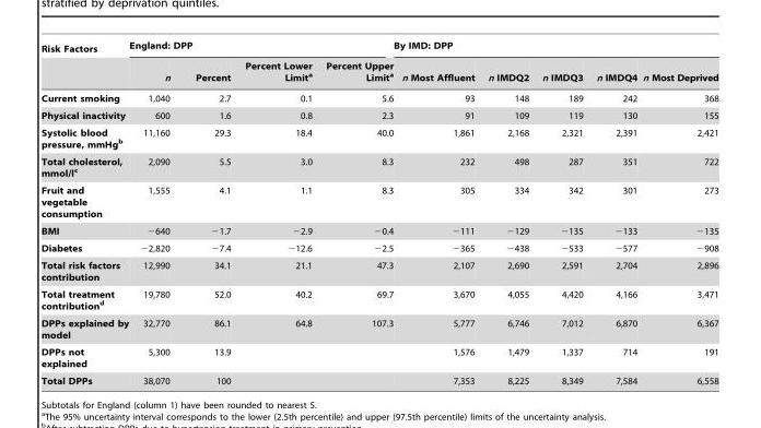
<table><thead><tr><td rowspan="2">Risk Factors</td><td colspan="4">England: DPP</td><td colspan="5">By IMD: DPP</td></tr><tr><td>n</td><td>Percent</td><td>Percent Lower Limit<sup>a</sup></td><td>Percent Upper Limit<sup>a</sup></td><td>n Most Affluent</td><td>n IMDQ2</td><td>n IMDQ3</td><td>n IMDQ4</td><td>n Most Deprived</td></tr></thead><tbody><tr><td>Current smoking</td><td>1,040</td><td>2.7</td><td>0.1</td><td>5.6</td><td>93</td><td>148</td><td>189</td><td>242</td><td>368</td></tr><tr><td>Physical inactivity</td><td>600</td><td>1.6</td><td>0.8</td><td>2.3</td><td>91</td><td>109</td><td>119</td><td>130</td><td>155</td></tr><tr><td>Systolic blood pressure, mmHgb</td><td>11,160</td><td>29.3</td><td>18.4</td><td>40.0</td><td>1,861</td><td>2,168</td><td>2,321</td><td>2,391</td><td>2,421</td></tr><tr><td>Total cholesterol, mmol/lc</td><td>2,090</td><td>5.5</td><td>3.0</td><td>8.3</td><td>232</td><td>498</td><td>287</td><td>351</td><td>722</td></tr><tr><td>Fruit and vegetable consumption</td><td>1,555</td><td>4.1</td><td>1.1</td><td>8.3</td><td>305</td><td>334</td><td>342</td><td>301</td><td>273</td></tr><tr><td>BMI</td><td>−640</td><td>−1.7</td><td>−2.9</td><td>−0.4</td><td>−111</td><td>−129</td><td>−135</td><td>−133</td><td>−135</td></tr><tr><td>Diabetes</td><td>−2,820</td><td>−7.4</td><td>−12.6</td><td>−2.5</td><td>−365</td><td>−438</td><td>−533</td><td>−577</td><td>−908</td></tr><tr><td>Total risk factors contribution</td><td>12,990</td><td>34.1</td><td>21.1</td><td>47.3</td><td>2,107</td><td>2,690</td><td>2,591</td><td>2,704</td><td>2,896</td></tr><tr><td>Total treatment contributiond</td><td>19,780</td><td>52.0</td><td>40.2</td><td>69.7</td><td>3,670</td><td>4,055</td><td>4,420</td><td>4,166</td><td>3,471</td></tr><tr><td>DPPs explained by model</td><td>32,770</td><td>86.1</td><td>64.8</td><td>107.3</td><td>5,777</td><td>6,746</td><td>7,012</td><td>6,870</td><td>6,367</td></tr><tr><td>DPPs not explained</td><td>5,300</td><td>13.9</td><td></td><td></td><td>1,576</td><td>1,479</td><td>1,337</td><td>714</td><td>191</td></tr><tr><td>Total DPPs</td><td>38,070</td><td>100</td><td></td><td></td><td>7,353</td><td>8,225</td><td>8,349</td><td>7,584</td><td>6,558</td></tr></tbody></table>